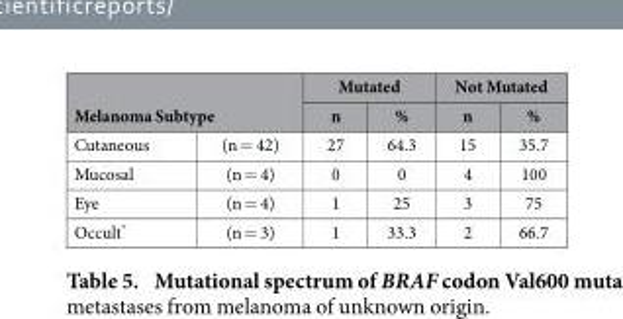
<table><thead><tr><td></td><td></td><td colspan="2">Mutated</td><td colspan="2">Not Mutated</td></tr><tr><td colspan="2">Melanoma Subtype</td><td>n</td><td>%</td><td>n</td><td>%</td></tr></thead><tbody><tr><td>Cutaneous</td><td>(n = 42)</td><td>27</td><td>64.3</td><td>15</td><td>35.7</td></tr><tr><td>Mucosal</td><td>(n = 4)</td><td>0</td><td>0</td><td>4</td><td>100</td></tr><tr><td>Eye</td><td>(n = 4)</td><td>1</td><td>25</td><td>3</td><td>75</td></tr><tr><td>Occult*</td><td>(n = 3)</td><td>1</td><td>33.3</td><td>2</td><td>66.7</td></tr></tbody></table>